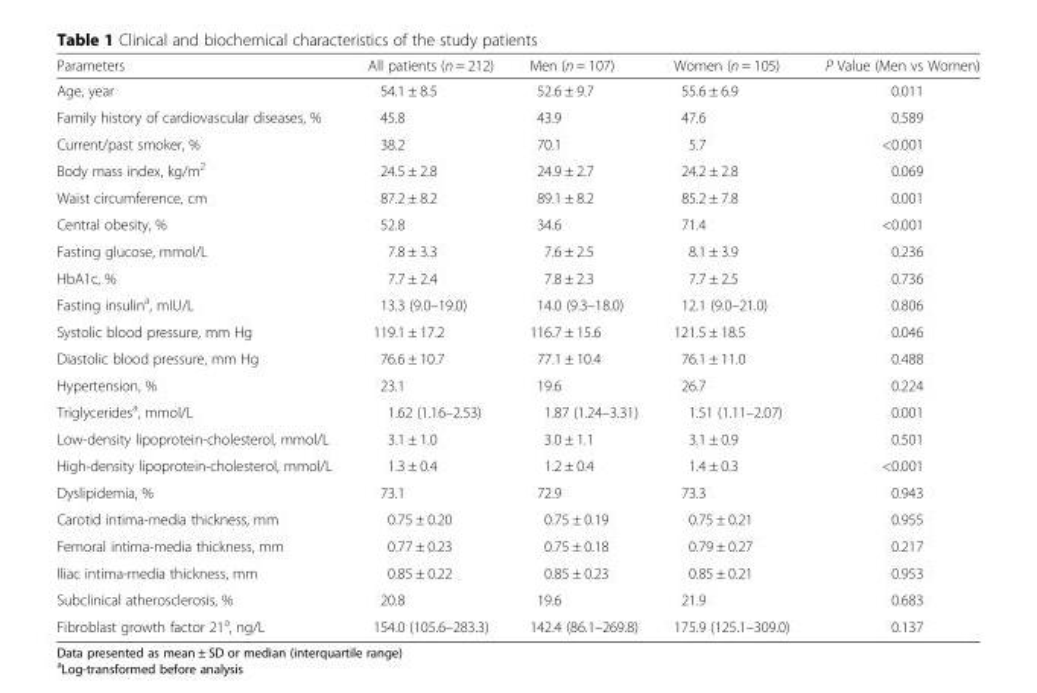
<table><thead><tr><td>Parameters</td><td>All patients (n = 212)</td><td>Men (n = 107)</td><td>Women (n = 105)</td><td>P Value (Men vs Women)</td></tr></thead><tbody><tr><td>Age, year</td><td>54.1 ± 8.5</td><td>52.6 ± 9.7</td><td>55.6 ± 6.9</td><td>0.011</td></tr><tr><td>Family history of cardiovascular diseases, %</td><td>45.8</td><td>43.9</td><td>47.6</td><td>0.589</td></tr><tr><td>Current/past smoker, %</td><td>38.2</td><td>70.1</td><td>5.7</td><td>&lt;0.001</td></tr><tr><td>Body mass index, kg/m<sup>2</sup></td><td>24.5 ± 2.8</td><td>24.9 ± 2.7</td><td>24.2 ± 2.8</td><td>0.069</td></tr><tr><td>Waist circumference, cm</td><td>87.2 ± 8.2</td><td>89.1 ± 8.2</td><td>85.2 ± 7.8</td><td>0.001</td></tr><tr><td>Central obesity, %</td><td>52.8</td><td>34.6</td><td>71.4</td><td>&lt;0.001</td></tr><tr><td>Fasting glucose, mmol/L</td><td>7.8 ± 3.3</td><td>7.6 ± 2.5</td><td>8.1 ± 3.9</td><td>0.236</td></tr><tr><td>HbA1c, %</td><td>7.7 ± 2.4</td><td>7.8 ± 2.3</td><td>7.7 ± 2.5</td><td>0.736</td></tr><tr><td>Fasting insulin<sup>a</sup>, mIU/L</td><td>13.3 (9.0–19.0)</td><td>14.0 (9.3–18.0)</td><td>12.1 (9.0–21.0)</td><td>0.806</td></tr><tr><td>Systolic blood pressure, mm Hg</td><td>119.1 ± 17.2</td><td>116.7 ± 15.6</td><td>121.5 ± 18.5</td><td>0.046</td></tr><tr><td>Diastolic blood pressure, mm Hg</td><td>76.6 ± 10.7</td><td>77.1 ± 10.4</td><td>76.1 ± 11.0</td><td>0.488</td></tr><tr><td>Hypertension, %</td><td>23.1</td><td>19.6</td><td>26.7</td><td>0.224</td></tr><tr><td>Triglycerides<sup>a</sup>, mmol/L</td><td>1.62 (1.16–2.53)</td><td>1.87 (1.24–3.31)</td><td>1.51 (1.11–2.07)</td><td>0.001</td></tr><tr><td>Low-density lipoprotein-cholesterol, mmol/L</td><td>3.1 ± 1.0</td><td>3.0 ± 1.1</td><td>3.1 ± 0.9</td><td>0.501</td></tr><tr><td>High-density lipoprotein-cholesterol, mmol/L</td><td>1.3 ± 0.4</td><td>1.2 ± 0.4</td><td>1.4 ± 0.3</td><td>&lt;0.001</td></tr><tr><td>Dyslipidemia, %</td><td>73.1</td><td>72.9</td><td>73.3</td><td>0.943</td></tr><tr><td>Carotid intima-media thickness, mm</td><td>0.75 ± 0.20</td><td>0.75 ± 0.19</td><td>0.75 ± 0.21</td><td>0.955</td></tr><tr><td>Femoral intima-media thickness, mm</td><td>0.77 ± 0.23</td><td>0.75 ± 0.18</td><td>0.79 ± 0.27</td><td>0.217</td></tr><tr><td>Iliac intima-media thickness, mm</td><td>0.85 ± 0.22</td><td>0.85 ± 0.23</td><td>0.85 ± 0.21</td><td>0.953</td></tr><tr><td>Subclinical atherosclerosis, %</td><td>20.8</td><td>19.6</td><td>21.9</td><td>0.683</td></tr><tr><td>Fibroblast growth factor 21<sup>a</sup>, ng/L</td><td>154.0 (105.6–283.3)</td><td>142.4 (86.1–269.8)</td><td>175.9 (125.1–309.0)</td><td>0.137</td></tr></tbody></table>